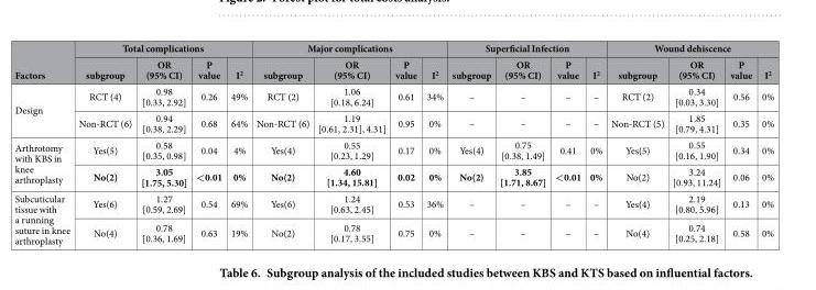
<table><thead><tr><td rowspan="2">Factors</td><td colspan="4">Total complications</td><td colspan="4">Major complications</td><td colspan="4">Superficial Infection</td><td colspan="4">Wound dehiscence</td></tr><tr><td>subgroup</td><td>OR (95% CI)</td><td>P value</td><td>I<sup>2</sup></td><td>subgroup</td><td>OR (95% CI)</td><td>P value</td><td>I<sup>2</sup></td><td>subgroup</td><td>OR (95% CI)</td><td>P value</td><td>I<sup>2</sup></td><td>subgroup</td><td>OR (95% CI)</td><td>P value</td><td>I<sup>2</sup></td></tr></thead><tbody><tr><td rowspan="2">Design</td><td>RCT (4)</td><td>0.98 [0.33, 2.92]</td><td>0.26</td><td>49%</td><td>RCT (2)</td><td>1.06 [0.18, 6.24]</td><td>0.61</td><td>34%</td><td>–</td><td>–</td><td>–</td><td>–</td><td>RCT (2)</td><td>0.34 [0.03, 3.30]</td><td>0.56</td><td>0%</td></tr><tr><td>Non-RCT (6)</td><td>0.94 [0.38, 2.29]</td><td>0.68</td><td>64%</td><td>Non-RCT (6)</td><td>1.19 [0.61, 2.31], 4.31]</td><td>0.95</td><td>0%</td><td>–</td><td>–</td><td>–</td><td>–</td><td>Non-RCT (5)</td><td>1.85 [0.79, 4.31]</td><td>0.35</td><td>0%</td></tr><tr><td rowspan="2">Arthrotomy with KBS in knee arthroplasty</td><td>Yes(5)</td><td>0.58 [0.35, 0.98]</td><td>0.04</td><td>4%</td><td>Yes(4)</td><td>0.55 [0.23, 1.29]</td><td>0.17</td><td>0%</td><td>Yes(4)</td><td>0.75 [0.38, 1.49]</td><td>0.41</td><td>0%</td><td>Yes(5)</td><td>0.55 [0.16, 1.90]</td><td>0.34</td><td>0%</td></tr><tr><td>No(2)</td><td>3.05 [1.75, 5.30]</td><td>&lt;0.01</td><td>0%</td><td>No(2)</td><td>4.60 [1.34, 15.81]</td><td>0.02</td><td>0%</td><td>No(2)</td><td>3.85 [1.71, 8.67]</td><td>&lt;0.01</td><td>0%</td><td>No(2)</td><td>3.24 [0.93, 11.24]</td><td>0.06</td><td>0%</td></tr><tr><td rowspan="2">Subcuticular tissue with a running suture in knee arthroplasty</td><td>Yes(6)</td><td>1.27 [0.59, 2.69]</td><td>0.54</td><td>69%</td><td>Yes(6)</td><td>1.24 [0.63, 2.45]</td><td>0.53</td><td>36%</td><td>–</td><td>–</td><td>–</td><td>–</td><td>Yes(4)</td><td>2.19 [0.80, 5.96]</td><td>0.13</td><td>0%</td></tr><tr><td>No(4)</td><td>0.78 [0.36, 1.69]</td><td>0.63</td><td>19%</td><td>No(2)</td><td>0.78 [0.17, 3.55]</td><td>0.75</td><td>0%</td><td>–</td><td>–</td><td>–</td><td>–</td><td>No(4)</td><td>0.74 [0.25, 2.18]</td><td>0.58</td><td>0%</td></tr></tbody></table>